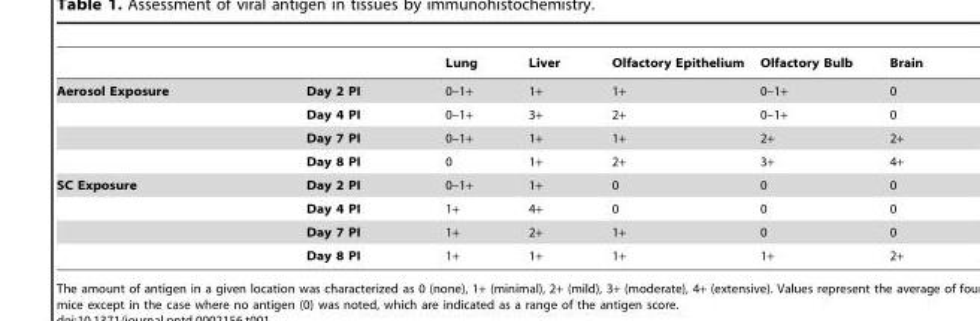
<table><thead><tr><td></td><td></td><td>Lung</td><td>Liver</td><td>Olfactory Epithelium</td><td>Olfactory Bulb</td><td>Brain</td></tr></thead><tbody><tr><td rowspan="4">Aerosol Exposure</td><td>Day 2 PI</td><td>0–1+</td><td>1+</td><td>1+</td><td>0–1+</td><td>0</td></tr><tr><td>Day 4 PI</td><td>0–1+</td><td>3+</td><td>2+</td><td>0–1+</td><td>0</td></tr><tr><td>Day 7 PI</td><td>0–1+</td><td>1+</td><td>1+</td><td>2+</td><td>2+</td></tr><tr><td>Day 8 PI</td><td>0</td><td>1+</td><td>2+</td><td>3+</td><td>4+</td></tr><tr><td rowspan="4">SC Exposure</td><td>Day 2 PI</td><td>0–1+</td><td>1+</td><td>0</td><td>0</td><td>0</td></tr><tr><td>Day 4 PI</td><td>1+</td><td>4+</td><td>0</td><td>0</td><td>0</td></tr><tr><td>Day 7 PI</td><td>1+</td><td>2+</td><td>1+</td><td>0</td><td>0</td></tr><tr><td>Day 8 PI</td><td>1+</td><td>1+</td><td>1+</td><td>1+</td><td>2+</td></tr></tbody></table>